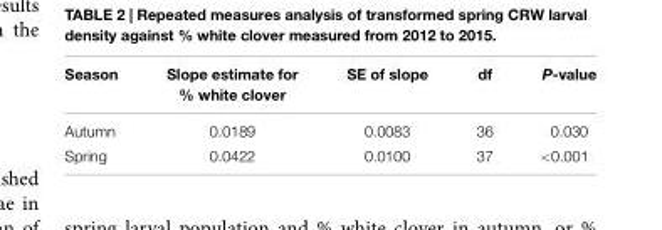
<table><thead><tr><td>Season</td><td>Slope estimate for % white clover</td><td>SE of slope</td><td>df</td><td>P-value</td></tr></thead><tbody><tr><td>Autumn</td><td>0.0189</td><td>0.0083</td><td>36</td><td>0.030</td></tr><tr><td>Spring</td><td>0.0422</td><td>0.0100</td><td>37</td><td>&lt;0.001</td></tr></tbody></table>